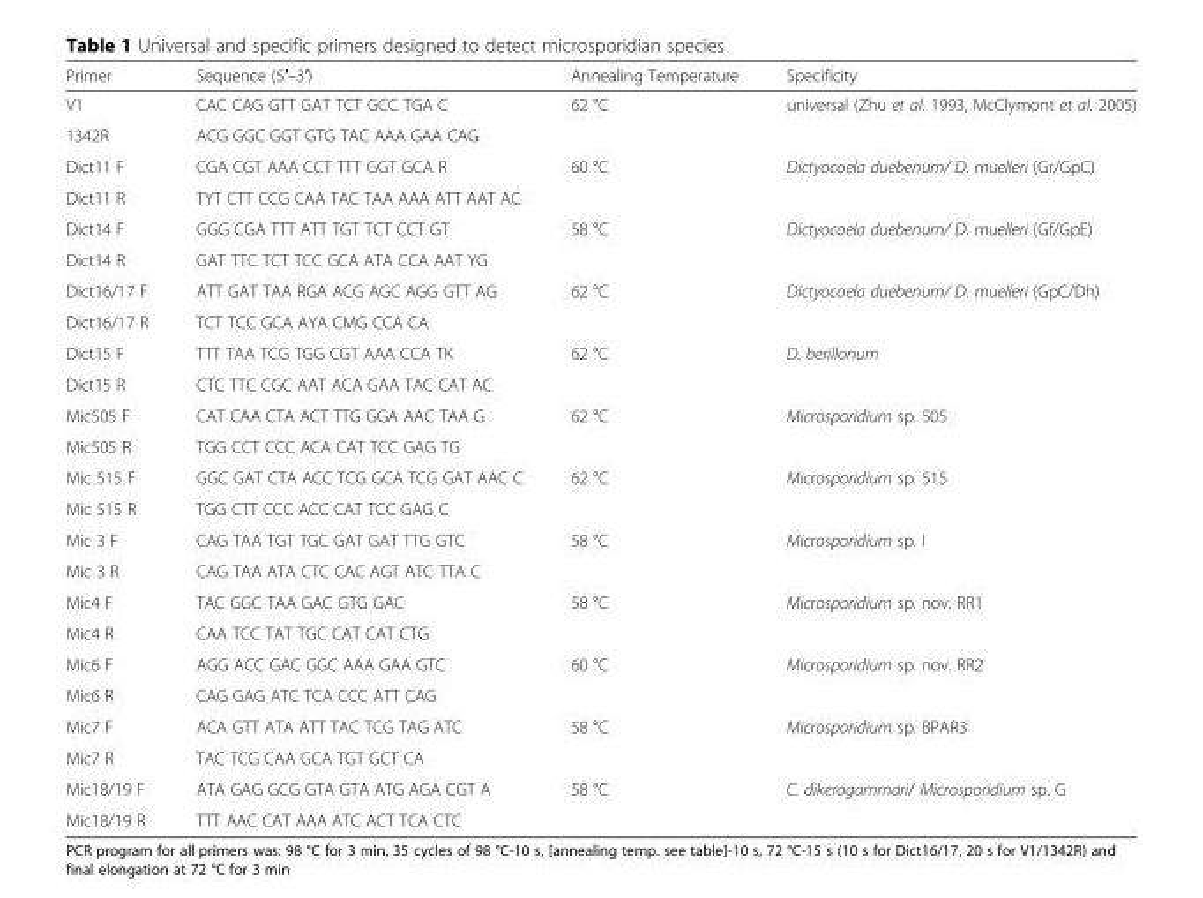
<table><thead><tr><td>Primer</td><td>Sequence (5′–3′)</td><td>Annealing Temperature</td><td>Specificity</td></tr></thead><tbody><tr><td>V1</td><td>CAC CAG GTT GAT TCT GCC TGA C</td><td rowspan="2">62 °C</td><td rowspan="2">universal (Zhu et al. 1993, McClymont et al. 2005)</td></tr><tr><td>1342R</td><td>ACG GGC GGT GTG TAC AAA GAA CAG</td></tr><tr><td>Dict11 F</td><td>CGA CGT AAA CCT TTT GGT GCA R</td><td rowspan="2">60 °C</td><td rowspan="2">Dictyocoela duebenum/ D. muelleri (Gr/GpC)</td></tr><tr><td>Dict11 R</td><td>TYT CTT CCG CAA TAC TAA AAA ATT AAT AC</td></tr><tr><td>Dict14 F</td><td>GGG CGA TTT ATT TGT TCT CCT GT</td><td rowspan="2">58 °C</td><td rowspan="2">Dictyocoela duebenum/ D. muelleri (Gf/GpE)</td></tr><tr><td>Dict14 R</td><td>GAT TTC TCT TCC GCA ATA CCA AAT YG</td></tr><tr><td>Dict16/17 F</td><td>ATT GAT TAA RGA ACG AGC AGG GTT AG</td><td rowspan="2">62 °C</td><td rowspan="2">Dictyocoela duebenum/ D. muelleri (GpC/Dh)</td></tr><tr><td>Dict16/17 R</td><td>TCT TCC GCA AYA CMG CCA CA</td></tr><tr><td>Dict15 F</td><td>TTT TAA TCG TGG CGT AAA CCA TK</td><td rowspan="2">62 °C</td><td rowspan="2">D. berillonum</td></tr><tr><td>Dict15 R</td><td>CTC TTC CGC AAT ACA GAA TAC CAT AC</td></tr><tr><td>Mic505 F</td><td>CAT CAA CTA ACT TTG GGA AAC TAA G</td><td rowspan="2">62 °C</td><td rowspan="2">Microsporidium sp. 505</td></tr><tr><td>Mic505 R</td><td>TGG CCT CCC ACA CAT TCC GAG TG</td></tr><tr><td>Mic 515 F</td><td>GGC GAT CTA ACC TCG GCA TCG GAT AAC C</td><td rowspan="2">62 °C</td><td rowspan="2">Microsporidium sp. 515</td></tr><tr><td>Mic 515 R</td><td>TGG CTT CCC ACC CAT TCC GAG C</td></tr><tr><td>Mic 3 F</td><td>CAG TAA TGT TGC GAT GAT TTG GTC</td><td rowspan="2">58 °C</td><td rowspan="2">Microsporidium sp. I</td></tr><tr><td>Mic 3 R</td><td>CAG TAA ATA CTC CAC AGT ATC TTA C</td></tr><tr><td>Mic4 F</td><td>TAC GGC TAA GAC GTG GAC</td><td rowspan="2">58 °C</td><td rowspan="2">Microsporidium sp. nov. RR1</td></tr><tr><td>Mic4 R</td><td>CAA TCC TAT TGC CAT CAT CTG</td></tr><tr><td>Mic6 F</td><td>AGG ACC GAC GGC AAA GAA GTC</td><td rowspan="2">60 °C</td><td rowspan="2">Microsporidium sp. nov. RR2</td></tr><tr><td>Mic6 R</td><td>CAG GAG ATC TCA CCC ATT CAG</td></tr><tr><td>Mic7 F</td><td>ACA GTT ATA ATT TAC TCG TAG ATC</td><td rowspan="2">58 °C</td><td rowspan="2">Microsporidium sp. BPAR3</td></tr><tr><td>Mic7 R</td><td>TAC TCG CAA GCA TGT GCT CA</td></tr><tr><td>Mic18/19 F</td><td>ATA GAG GCG GTA GTA ATG AGA CGT A</td><td rowspan="2">58 °C</td><td rowspan="2">C. dikerogammari/ Microsporidium sp. G</td></tr><tr><td>Mic18/19 R</td><td>TTT AAC CAT AAA ATC ACT TCA CTC</td></tr></tbody></table>